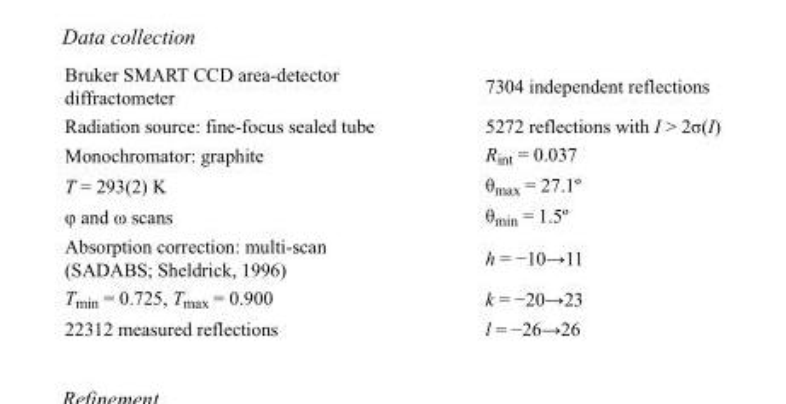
<table><tbody><tr><td>Bruker SMART CCD area-detector diffractometer</td><td>7304 independent reflections</td></tr><tr><td>Radiation source: fine-focus sealed tube</td><td>5272 reflections with I &gt; 2σ(I)</td></tr><tr><td>Monochromator: graphite</td><td>R<sub>int</sub> = 0.037</td></tr><tr><td>T = 293(2) K</td><td>θ<sub>max</sub> = 27.1º</td></tr><tr><td>φ and ω scans</td><td>θ<sub>min</sub> = 1.5º</td></tr><tr><td>Absorption correction: multi-scan (SADABS; Sheldrick, 1996)</td><td>h = −10→11</td></tr><tr><td>T<sub>min</sub> = 0.725, T<sub>max</sub> = 0.900</td><td>k = −20→23</td></tr><tr><td>22312 measured reflections</td><td>l = −26→26</td></tr></tbody></table>